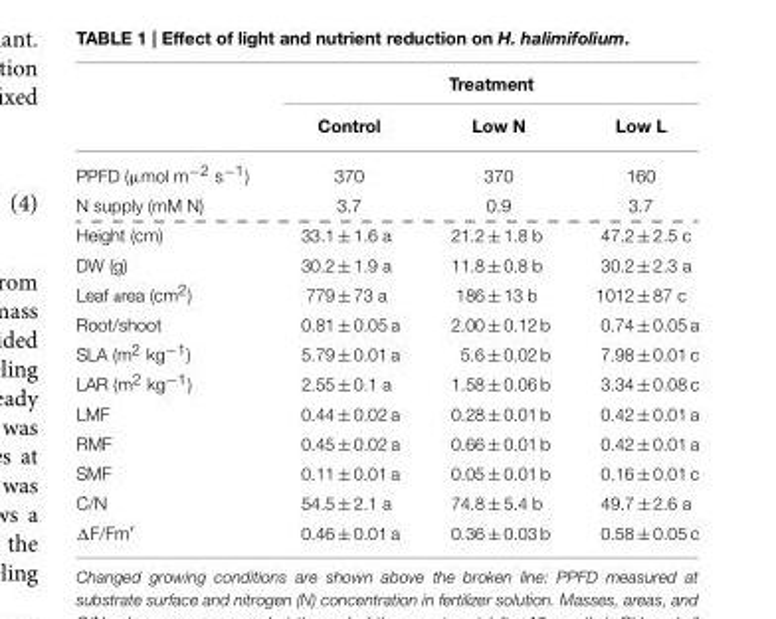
<table><thead><tr><td rowspan="2"></td><td colspan="3">Treatment</td></tr><tr><td>Control</td><td>Low N</td><td>Low L</td></tr></thead><tbody><tr><td>PPFD (µmol m<sup>−2</sup> s<sup>−1</sup>)</td><td>370</td><td>370</td><td>160</td></tr><tr><td>N supply (mM N)</td><td>3.7</td><td>0.9</td><td>3.7</td></tr><tr><td>Height (cm)</td><td>33.1 ± 1.6 a</td><td>21.2 ± 1.8 b</td><td>47.2 ± 2.5 c</td></tr><tr><td>DW (g)</td><td>30.2 ± 1.9 a</td><td>11.8 ± 0.8 b</td><td>30.2 ± 2.3 a</td></tr><tr><td>Leaf area (cm<sup>2</sup>)</td><td>779 ± 73 a</td><td>186 ± 13 b</td><td>1012 ± 87 c</td></tr><tr><td>Root/shoot</td><td>0.81 ± 0.05 a</td><td>2.00 ± 0.12 b</td><td>0.74 ± 0.05 a</td></tr><tr><td>SLA (m<sup>2</sup> kg<sup>−1</sup>)</td><td>5.79 ± 0.01 a</td><td>5.6 ± 0.02 b</td><td>7.98 ± 0.01 c</td></tr><tr><td>LAR (m<sup>2</sup> kg<sup>−1</sup>)</td><td>2.55 ± 0.1 a</td><td>1.58 ± 0.06 b</td><td>3.34 ± 0.08 c</td></tr><tr><td>LMF</td><td>0.44 ± 0.02 a</td><td>0.28 ± 0.01 b</td><td>0.42 ± 0.01 a</td></tr><tr><td>RMF</td><td>0.45 ± 0.02 a</td><td>0.66 ± 0.01 b</td><td>0.42 ± 0.01 a</td></tr><tr><td>SMF</td><td>0.11 ± 0.01 a</td><td>0.05 ± 0.01 b</td><td>0.16 ± 0.01 c</td></tr><tr><td>C/N</td><td>54.5 ± 2.1 a</td><td>74.8 ± 5.4 b</td><td>49.7 ± 2.6 a</td></tr><tr><td>ΔF/Fm′</td><td>0.46 ± 0.01 a</td><td>0.36 ± 0.03 b</td><td>0.58 ± 0.05 c</td></tr></tbody></table>